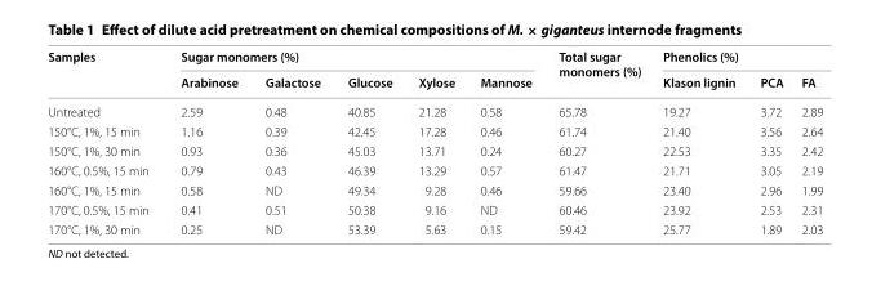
<table><thead><tr><td rowspan="2">Samples</td><td colspan="5">Sugar monomers (%)</td><td rowspan="2">Total sugar monomers (%)</td><td colspan="3">Phenolics (%)</td></tr><tr><td>Arabinose</td><td>Galactose</td><td>Glucose</td><td>Xylose</td><td>Mannose</td><td>Klason lignin</td><td>PCA</td><td>FA</td></tr></thead><tbody><tr><td>Untreated</td><td>2.59</td><td>0.48</td><td>40.85</td><td>21.28</td><td>0.58</td><td>65.78</td><td>19.27</td><td>3.72</td><td>2.89</td></tr><tr><td>150°C, 1%, 15 min</td><td>1.16</td><td>0.39</td><td>42.45</td><td>17.28</td><td>0.46</td><td>61.74</td><td>21.40</td><td>3.56</td><td>2.64</td></tr><tr><td>150°C, 1%, 30 min</td><td>0.93</td><td>0.36</td><td>45.03</td><td>13.71</td><td>0.24</td><td>60.27</td><td>22.53</td><td>3.35</td><td>2.42</td></tr><tr><td>160°C, 0.5%, 15 min</td><td>0.79</td><td>0.43</td><td>46.39</td><td>13.29</td><td>0.57</td><td>61.47</td><td>21.71</td><td>3.05</td><td>2.19</td></tr><tr><td>160°C, 1%, 15 min</td><td>0.58</td><td>ND</td><td>49.34</td><td>9.28</td><td>0.46</td><td>59.66</td><td>23.40</td><td>2.96</td><td>1.99</td></tr><tr><td>170°C, 0.5%, 15 min</td><td>0.41</td><td>0.51</td><td>50.38</td><td>9.16</td><td>ND</td><td>60.46</td><td>23.92</td><td>2.53</td><td>2.31</td></tr><tr><td>170°C, 1%, 30 min</td><td>0.25</td><td>ND</td><td>53.39</td><td>5.63</td><td>0.15</td><td>59.42</td><td>25.77</td><td>1.89</td><td>2.03</td></tr></tbody></table>